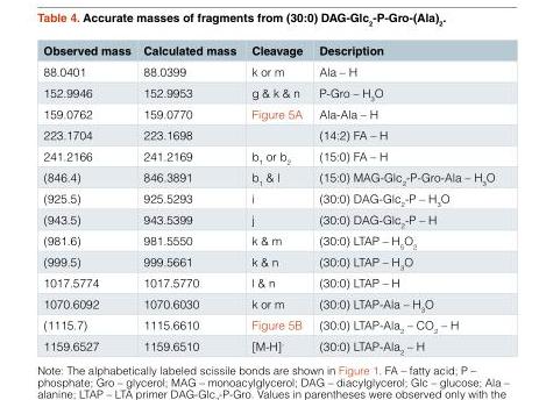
<table><thead><tr><td>Observed mass</td><td>Calculated mass</td><td>Cleavage</td><td>Description</td></tr></thead><tbody><tr><td>88.0401</td><td>88.0399</td><td>k or m</td><td>Ala – H</td></tr><tr><td>152.9946</td><td>152.9953</td><td>g &amp; k &amp; n</td><td>P-Gro – H<sub>3</sub>O</td></tr><tr><td>159.0762</td><td>159.0770</td><td>Figure 5A</td><td>Ala-Ala – H</td></tr><tr><td>223.1704</td><td>223.1698</td><td></td><td>(14:2) FA – H</td></tr><tr><td>241.2166</td><td>241.2169</td><td>b<sub>1</sub> or b<sub>2</sub></td><td>(15:0) FA – H</td></tr><tr><td>(846.4)</td><td>846.3891</td><td>b<sub>1</sub> &amp; l</td><td>(15:0) MAG-Glc<sub>2</sub>-P-Gro-Ala – H<sub>3</sub>O</td></tr><tr><td>(925.5)</td><td>925.5293</td><td>i</td><td>(30:0) DAG-Glc<sub>2</sub>-P – H<sub>3</sub>O</td></tr><tr><td>(943.5)</td><td>943.5399</td><td>j</td><td>(30:0) DAG-Glc<sub>2</sub>-P – H</td></tr><tr><td>(981.6)</td><td>981.5550</td><td>k &amp; m</td><td>(30:0) LTAP – H<sub>5</sub>O<sub>2</sub></td></tr><tr><td>(999.5)</td><td>999.5661</td><td>k &amp; n</td><td>(30:0) LTAP – H<sub>3</sub>O</td></tr><tr><td>1017.5774</td><td>1017.5770</td><td>l &amp; n</td><td>(30:0) LTAP – H</td></tr><tr><td>1070.6092</td><td>1070.6030</td><td>k or m</td><td>(30:0) LTAP-Ala – H<sub>3</sub>O</td></tr><tr><td>(1115.7)</td><td>1115.6610</td><td>Figure 5B</td><td>(30:0) LTAP-Ala<sub>2</sub> – CO<sub>2</sub> – H</td></tr><tr><td>1159.6527</td><td>1159.6510</td><td>[M-H]<sup>-</sup></td><td>(30:0) LTAP-Ala<sub>2</sub> – H</td></tr></tbody></table>